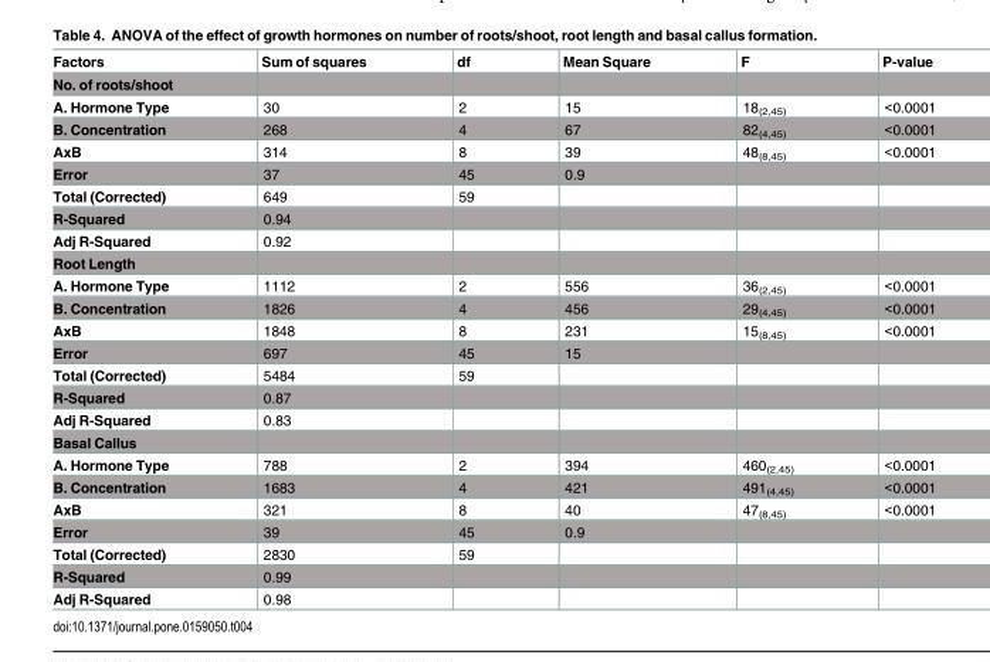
<table><thead><tr><td>Factors</td><td>Sum of squares</td><td>df</td><td>Mean Square</td><td>F</td><td>P-value</td></tr></thead><tbody><tr><td colspan="6">No. of roots/shoot</td></tr><tr><td>A. Hormone Type</td><td>30</td><td>2</td><td>15</td><td>18<sub>(2,45)</sub></td><td>&lt;0.0001</td></tr><tr><td>B. Concentration</td><td>268</td><td>4</td><td>67</td><td>82<sub>(4,45)</sub></td><td>&lt;0.0001</td></tr><tr><td>AxB</td><td>314</td><td>8</td><td>39</td><td>48<sub>(8,45)</sub></td><td>&lt;0.0001</td></tr><tr><td>Error</td><td>37</td><td>45</td><td>0.9</td><td></td><td></td></tr><tr><td>Total (Corrected)</td><td>649</td><td>59</td><td></td><td></td><td></td></tr><tr><td>R-Squared</td><td>0.94</td><td></td><td></td><td></td><td></td></tr><tr><td>Adj R-Squared</td><td>0.92</td><td></td><td></td><td></td><td></td></tr><tr><td colspan="6">Root Length</td></tr><tr><td>A. Hormone Type</td><td>1112</td><td>2</td><td>556</td><td>36<sub>(2,45)</sub></td><td>&lt;0.0001</td></tr><tr><td>B. Concentration</td><td>1826</td><td>4</td><td>456</td><td>29<sub>(4,45)</sub></td><td>&lt;0.0001</td></tr><tr><td>AxB</td><td>1848</td><td>8</td><td>231</td><td>15<sub>(8,45)</sub></td><td>&lt;0.0001</td></tr><tr><td>Error</td><td>697</td><td>45</td><td>15</td><td></td><td></td></tr><tr><td>Total (Corrected)</td><td>5484</td><td>59</td><td></td><td></td><td></td></tr><tr><td>R-Squared</td><td>0.87</td><td></td><td></td><td></td><td></td></tr><tr><td>Adj R-Squared</td><td>0.83</td><td></td><td></td><td></td><td></td></tr><tr><td colspan="6">Basal Callus</td></tr><tr><td>A. Hormone Type</td><td>788</td><td>2</td><td>394</td><td>460<sub>(2,45)</sub></td><td>&lt;0.0001</td></tr><tr><td>B. Concentration</td><td>1683</td><td>4</td><td>421</td><td>491<sub>(4,45)</sub></td><td>&lt;0.0001</td></tr><tr><td>AxB</td><td>321</td><td>8</td><td>40</td><td>47<sub>(8,45)</sub></td><td>&lt;0.0001</td></tr><tr><td>Error</td><td>39</td><td>45</td><td>0.9</td><td></td><td></td></tr><tr><td>Total (Corrected)</td><td>2830</td><td>59</td><td></td><td></td><td></td></tr><tr><td>R-Squared</td><td>0.99</td><td></td><td></td><td></td><td></td></tr><tr><td>Adj R-Squared</td><td>0.98</td><td></td><td></td><td></td><td></td></tr></tbody></table>